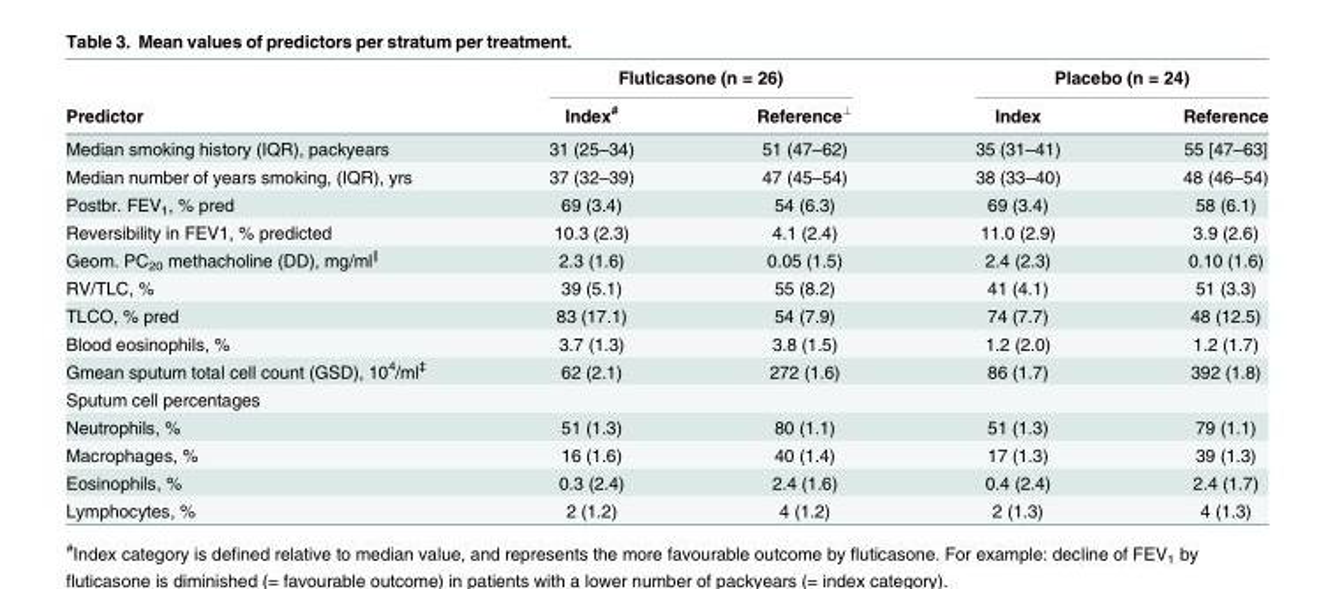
<table><thead><tr><td rowspan="2">Predictor</td><td colspan="2">Fluticasone (n = 26)</td><td colspan="2">Placebo (n = 24)</td></tr><tr><td>Index<sup>#</sup></td><td>Reference<sup>⊥</sup></td><td>Index</td><td>Reference</td></tr></thead><tbody><tr><td>Median smoking history (IQR), packyears</td><td>31 (25–34)</td><td>51 (47–62)</td><td>35 (31–41)</td><td>55 [47–63]</td></tr><tr><td>Median number of years smoking, (IQR), yrs</td><td>37 (32–39)</td><td>47 (45–54)</td><td>38 (33–40)</td><td>48 (46–54)</td></tr><tr><td>Postbr. FEV<sub>1</sub>, % pred</td><td>69 (3.4)</td><td>54 (6.3)</td><td>69 (3.4)</td><td>58 (6.1)</td></tr><tr><td>Reversibility in FEV1, % predicted</td><td>10.3 (2.3)</td><td>4.1 (2.4)</td><td>11.0 (2.9)</td><td>3.9 (2.6)</td></tr><tr><td>Geom. PC<sub>20</sub> methacholine (DD), mg/ml<sup>║</sup></td><td>2.3 (1.6)</td><td>0.05 (1.5)</td><td>2.4 (2.3)</td><td>0.10 (1.6)</td></tr><tr><td>RV/TLC, %</td><td>39 (5.1)</td><td>55 (8.2)</td><td>41 (4.1)</td><td>51 (3.3)</td></tr><tr><td>TLCO, % pred</td><td>83 (17.1)</td><td>54 (7.9)</td><td>74 (7.7)</td><td>48 (12.5)</td></tr><tr><td>Blood eosinophils, %</td><td>3.7 (1.3)</td><td>3.8 (1.5)</td><td>1.2 (2.0)</td><td>1.2 (1.7)</td></tr><tr><td>Gmean sputum total cell count (GSD), 10<sup>4</sup>/ml<sup>‡</sup></td><td>62 (2.1)</td><td>272 (1.6)</td><td>86 (1.7)</td><td>392 (1.8)</td></tr><tr><td colspan="5">Sputum cell percentages</td></tr><tr><td>Neutrophils, %</td><td>51 (1.3)</td><td>80 (1.1)</td><td>51 (1.3)</td><td>79 (1.1)</td></tr><tr><td>Macrophages, %</td><td>16 (1.6)</td><td>40 (1.4)</td><td>17 (1.3)</td><td>39 (1.3)</td></tr><tr><td>Eosinophils, %</td><td>0.3 (2.4)</td><td>2.4 (1.6)</td><td>0.4 (2.4)</td><td>2.4 (1.7)</td></tr><tr><td>Lymphocytes, %</td><td>2 (1.2)</td><td>4 (1.2)</td><td>2 (1.3)</td><td>4 (1.3)</td></tr></tbody></table>